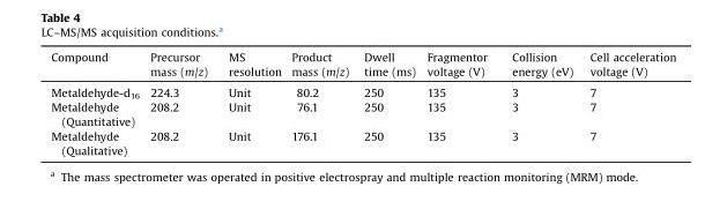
<table><thead><tr><td>Compound</td><td>Precursor mass (m/z)</td><td>MS resolution</td><td>Product mass (m/z)</td><td>Dwell time (ms)</td><td>Fragmentor voltage (V)</td><td>Collision energy (eV)</td><td>Cell acceleration voltage (V)</td></tr></thead><tbody><tr><td>Metaldehyde-d<sub>16</sub></td><td>224.3</td><td>Unit</td><td>80.2</td><td>250</td><td>135</td><td>3</td><td>7</td></tr><tr><td>Metaldehyde (Quantitative)</td><td>208.2</td><td>Unit</td><td>76.1</td><td>250</td><td>135</td><td>3</td><td>7</td></tr><tr><td>Metaldehyde (Qualitative)</td><td>208.2</td><td>Unit</td><td>176.1</td><td>250</td><td>135</td><td>3</td><td>7</td></tr></tbody></table>